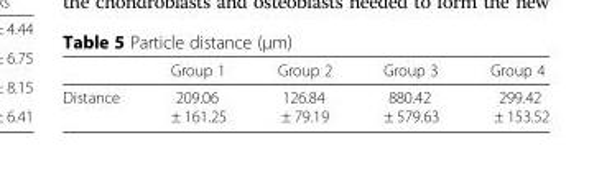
<table><thead><tr><td></td><td>Group 1</td><td>Group 2</td><td>Group 3</td><td>Group 4</td></tr></thead><tbody><tr><td>Distance</td><td>209.06 ± 161.25</td><td>126.84 ± 79.19</td><td>880.42 ± 579.63</td><td>299.42 ± 153.52</td></tr></tbody></table>